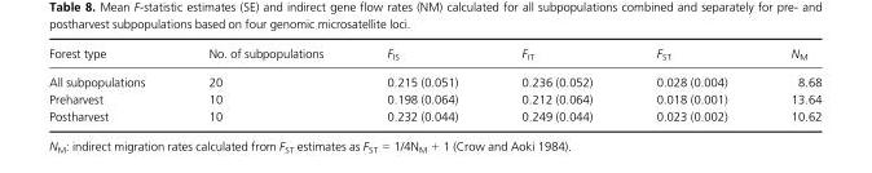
<table><thead><tr><td>Forest type</td><td>No. of subpopulations</td><td>F<sub>IS</sub></td><td>F<sub>IT</sub></td><td>F<sub>ST</sub></td><td>N<sub>M</sub></td></tr></thead><tbody><tr><td>All subpopulations</td><td>20</td><td>0.215 (0.051)</td><td>0.236 (0.052)</td><td>0.028 (0.004)</td><td>8.68</td></tr><tr><td>Preharvest</td><td>10</td><td>0.198 (0.064)</td><td>0.212 (0.064)</td><td>0.018 (0.001)</td><td>13.64</td></tr><tr><td>Postharvest</td><td>10</td><td>0.232 (0.044)</td><td>0.249 (0.044)</td><td>0.023 (0.002)</td><td>10.62</td></tr></tbody></table>